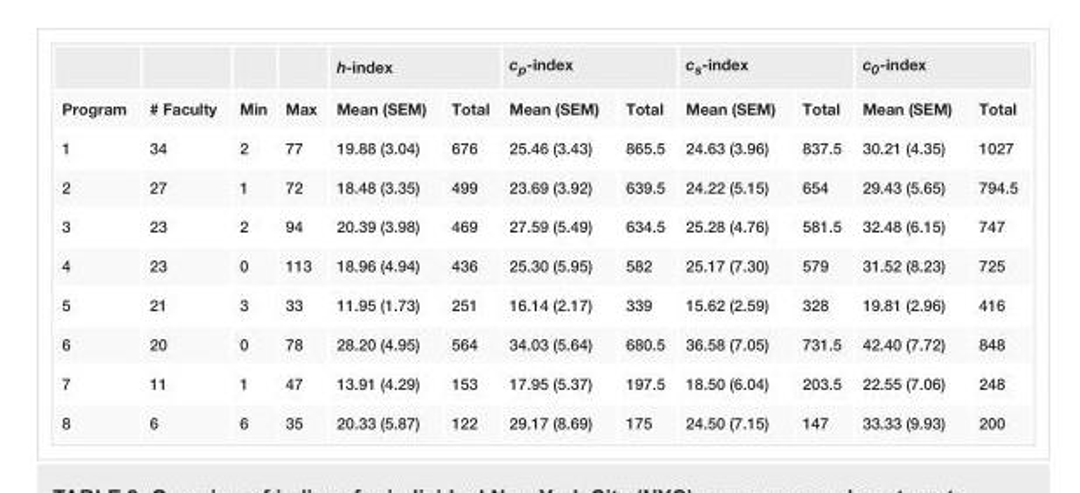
<table><thead><tr><td rowspan="2">Program</td><td rowspan="2"># Faculty</td><td rowspan="2">Min</td><td rowspan="2">Max</td><td colspan="2">h-index</td><td colspan="2">c<sub>p</sub>-index</td><td colspan="2">c<sub>s</sub>-index</td><td colspan="2">c<sub>0</sub>-index</td></tr><tr><td>Mean (SEM)</td><td>Total</td><td>Mean (SEM)</td><td>Total</td><td>Mean (SEM)</td><td>Total</td><td>Mean (SEM)</td><td>Total</td></tr></thead><tbody><tr><td>1</td><td>34</td><td>2</td><td>77</td><td>19.88 (3.04)</td><td>676</td><td>25.46 (3.43)</td><td>865.5</td><td>24.63 (3.96)</td><td>837.5</td><td>30.21 (4.35)</td><td>1027</td></tr><tr><td>2</td><td>27</td><td>1</td><td>72</td><td>18.48 (3.35)</td><td>499</td><td>23.69 (3.92)</td><td>639.5</td><td>24.22 (5.15)</td><td>654</td><td>29.43 (5.65)</td><td>794.5</td></tr><tr><td>3</td><td>23</td><td>2</td><td>94</td><td>20.39 (3.98)</td><td>469</td><td>27.59 (5.49)</td><td>634.5</td><td>25.28 (4.76)</td><td>581.5</td><td>32.48 (6.15)</td><td>747</td></tr><tr><td>4</td><td>23</td><td>0</td><td>113</td><td>18.96 (4.94)</td><td>436</td><td>25.30 (5.95)</td><td>582</td><td>25.17 (7.30)</td><td>579</td><td>31.52 (8.23)</td><td>725</td></tr><tr><td>5</td><td>21</td><td>3</td><td>33</td><td>11.95 (1.73)</td><td>251</td><td>16.14 (2.17)</td><td>339</td><td>15.62 (2.59)</td><td>328</td><td>19.81 (2.96)</td><td>416</td></tr><tr><td>6</td><td>20</td><td>0</td><td>78</td><td>28.20 (4.95)</td><td>564</td><td>34.03 (5.64)</td><td>680.5</td><td>36.58 (7.05)</td><td>731.5</td><td>42.40 (7.72)</td><td>848</td></tr><tr><td>7</td><td>11</td><td>1</td><td>47</td><td>13.91 (4.29)</td><td>153</td><td>17.95 (5.37)</td><td>197.5</td><td>18.50 (6.04)</td><td>203.5</td><td>22.55 (7.06)</td><td>248</td></tr><tr><td>8</td><td>6</td><td>6</td><td>35</td><td>20.33 (5.87)</td><td>122</td><td>29.17 (8.69)</td><td>175</td><td>24.50 (7.15)</td><td>147</td><td>33.33 (9.93)</td><td>200</td></tr></tbody></table>